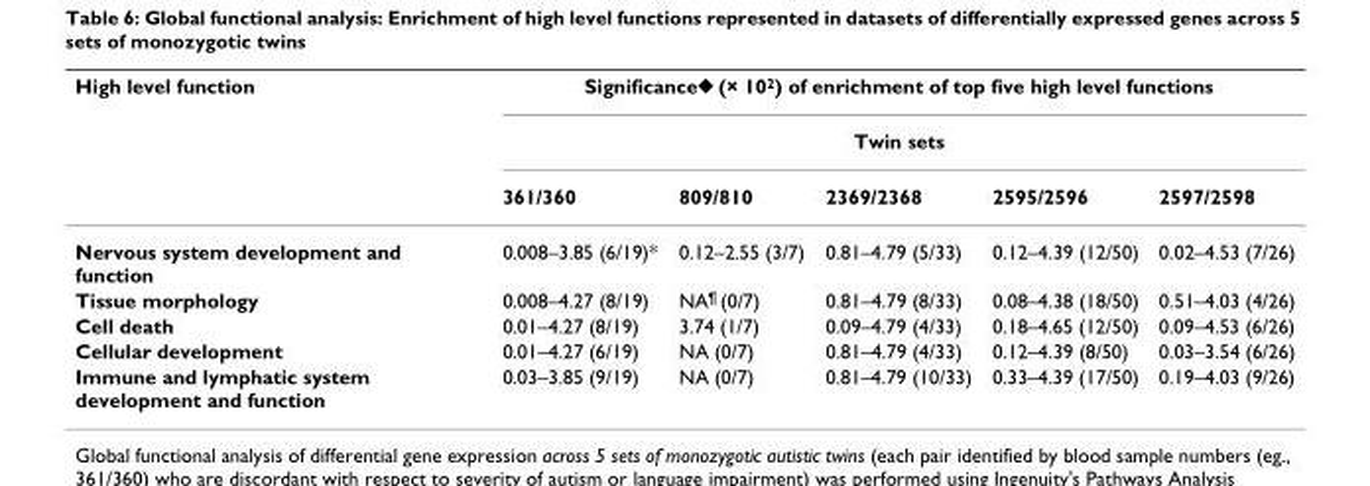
<table><thead><tr><td rowspan="3">High level function</td><td rowspan="2" colspan="5">Significance<sup>◆</sup> (× 10<sup>2</sup>) of enrichment of top five high level functions Twin sets</td></tr><tr></tr><tr><td>361/360</td><td>809/810</td><td>2369/2368</td><td>2595/2596</td><td>2597/2598</td></tr></thead><tbody><tr><td>Nervous system development and function</td><td>0.008–3.85 (6/19)*</td><td>0.12–2.55 (3/7)</td><td>0.81–4.79 (5/33)</td><td>0.12–4.39 (12/50)</td><td>0.02–4.53 (7/26)</td></tr><tr><td>Tissue morphology</td><td>0.008–4.27 (8/19)</td><td>NA<sup>¶</sup> (0/7)</td><td>0.81–4.79 (8/33)</td><td>0.08–4.38 (18/50)</td><td>0.51–4.03 (4/26)</td></tr><tr><td>Cell death</td><td>0.01–4.27 (8/19)</td><td>3.74 (1/7)</td><td>0.09–4.79 (4/33)</td><td>0.18–4.65 (12/50)</td><td>0.09–4.53 (6/26)</td></tr><tr><td>Cellular development</td><td>0.01–4.27 (6/19)</td><td>NA (0/7)</td><td>0.81–4.79 (4/33)</td><td>0.12–4.39 (8/50)</td><td>0.03–3.54 (6/26)</td></tr><tr><td>Immune and lymphatic system development and function</td><td>0.03–3.85 (9/19)</td><td>NA (0/7)</td><td>0.81–4.79 (10/33)</td><td>0.33–4.39 (17/50)</td><td>0.19–4.03 (9/26)</td></tr></tbody></table>